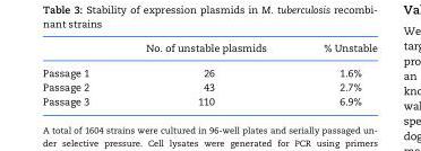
<table><thead><tr><td></td><td>No. of unstable plasmids</td><td>% Unstable</td></tr></thead><tbody><tr><td>Passage 1</td><td>26</td><td>1.6%</td></tr><tr><td>Passage 2</td><td>43</td><td>2.7%</td></tr><tr><td>Passage 3</td><td>110</td><td>6.9%</td></tr></tbody></table>